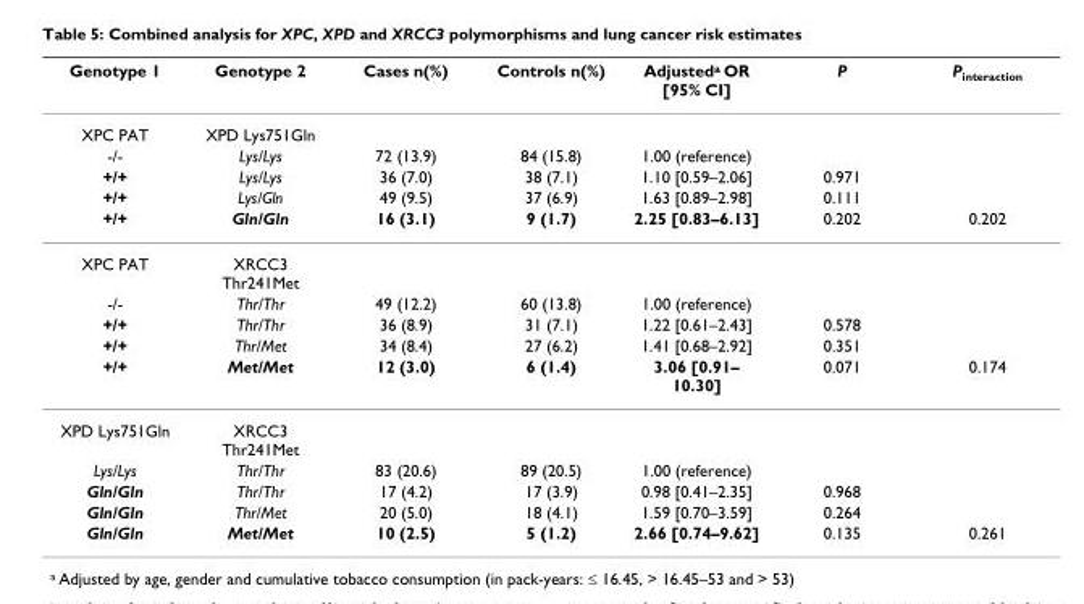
<table><thead><tr><td>Genotype 1</td><td>Genotype 2</td><td>Cases n(%)</td><td>Controls n(%)</td><td>Adjusted<sup>a</sup> OR [95% CI]</td><td>P</td><td>P<sub>interaction</sub></td></tr></thead><tbody><tr><td>XPC PAT</td><td>XPD Lys751Gln</td><td></td><td></td><td></td><td></td><td></td></tr><tr><td>-/-</td><td>Lys/Lys</td><td>72 (13.9)</td><td>84 (15.8)</td><td>1.00 (reference)</td><td></td><td></td></tr><tr><td>+/+</td><td>Lys/Lys</td><td>36 (7.0)</td><td>38 (7.1)</td><td>1.10 [0.59–2.06]</td><td>0.971</td><td></td></tr><tr><td>+/+</td><td>Lys/Gln</td><td>49 (9.5)</td><td>37 (6.9)</td><td>1.63 [0.89–2.98]</td><td>0.111</td><td></td></tr><tr><td>+/+</td><td>Gln/Gln</td><td>16 (3.1)</td><td>9 (1.7)</td><td>2.25 [0.83–6.13]</td><td>0.202</td><td>0.202</td></tr><tr><td>XPC PAT</td><td>XRCC3 Thr241Met</td><td></td><td></td><td></td><td></td><td></td></tr><tr><td>-/-</td><td>Thr/Thr</td><td>49 (12.2)</td><td>60 (13.8)</td><td>1.00 (reference)</td><td></td><td></td></tr><tr><td>+/+</td><td>Thr/Thr</td><td>36 (8.9)</td><td>31 (7.1)</td><td>1.22 [0.61–2.43]</td><td>0.578</td><td></td></tr><tr><td>+/+</td><td>Thr/Met</td><td>34 (8.4)</td><td>27 (6.2)</td><td>1.41 [0.68–2.92]</td><td>0.351</td><td></td></tr><tr><td>+/+</td><td>Met/Met</td><td>12 (3.0)</td><td>6 (1.4)</td><td>3.06 [0.91– 10.30]</td><td>0.071</td><td>0.174</td></tr><tr><td>XPD Lys751Gln</td><td>XRCC3 Thr241Met</td><td></td><td></td><td></td><td></td><td></td></tr><tr><td>Lys/Lys</td><td>Thr/Thr</td><td>83 (20.6)</td><td>89 (20.5)</td><td>1.00 (reference)</td><td></td><td></td></tr><tr><td>Gln/Gln</td><td>Thr/Thr</td><td>17 (4.2)</td><td>17 (3.9)</td><td>0.98 [0.41–2.35]</td><td>0.968</td><td></td></tr><tr><td>Gln/Gln</td><td>Thr/Met</td><td>20 (5.0)</td><td>18 (4.1)</td><td>1.59 [0.70–3.59]</td><td>0.264</td><td></td></tr><tr><td>Gln/Gln</td><td>Met/Met</td><td>10 (2.5)</td><td>5 (1.2)</td><td>2.66 [0.74–9.62]</td><td>0.135</td><td>0.261</td></tr></tbody></table>